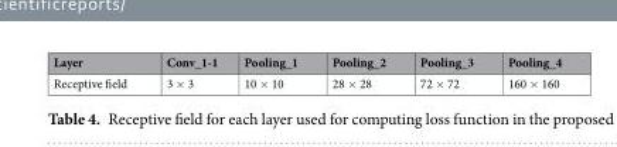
<table><thead><tr><td>Layer</td><td>Conv_1-1</td><td>Pooling_1</td><td>Pooling_2</td><td>Pooling_3</td><td>Pooling_4</td></tr></thead><tbody><tr><td>Receptive field</td><td>3 × 3</td><td>10 × 10</td><td>28 × 28</td><td>72 × 72</td><td>160 × 160</td></tr></tbody></table>